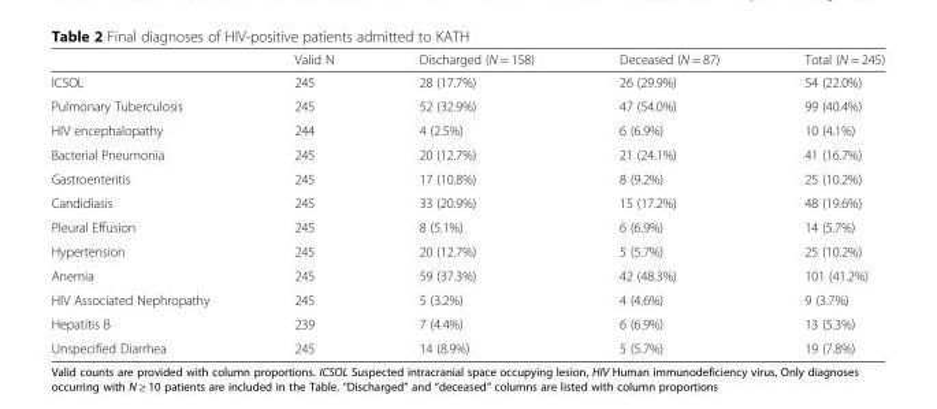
<table><thead><tr><td></td><td>Valid N</td><td>Discharged (N = 158)</td><td>Deceased (N = 87)</td><td>Total (N = 245)</td></tr></thead><tbody><tr><td>ICSOL</td><td>245</td><td>28 (17.7%)</td><td>26 (29.9%)</td><td>54 (22.0%)</td></tr><tr><td>Pulmonary Tuberculosis</td><td>245</td><td>52 (32.9%)</td><td>47 (54.0%)</td><td>99 (40.4%)</td></tr><tr><td>HIV encephalopathy</td><td>244</td><td>4 (2.5%)</td><td>6 (6.9%)</td><td>10 (4.1%)</td></tr><tr><td>Bacterial Pneumonia</td><td>245</td><td>20 (12.7%)</td><td>21 (24.1%)</td><td>41 (16.7%)</td></tr><tr><td>Gastroenteritis</td><td>245</td><td>17 (10.8%)</td><td>8 (9.2%)</td><td>25 (10.2%)</td></tr><tr><td>Candidiasis</td><td>245</td><td>33 (20.9%)</td><td>15 (17.2%)</td><td>48 (19.6%)</td></tr><tr><td>Pleural Effusion</td><td>245</td><td>8 (5.1%)</td><td>6 (6.9%)</td><td>14 (5.7%)</td></tr><tr><td>Hypertension</td><td>245</td><td>20 (12.7%)</td><td>5 (5.7%)</td><td>25 (10.2%)</td></tr><tr><td>Anemia</td><td>245</td><td>59 (37.3%)</td><td>42 (48.3%)</td><td>101 (41.2%)</td></tr><tr><td>HIV Associated Nephropathy</td><td>245</td><td>5 (3.2%)</td><td>4 (4.6%)</td><td>9 (3.7%)</td></tr><tr><td>Hepatitis B</td><td>239</td><td>7 (4.4%)</td><td>6 (6.9%)</td><td>13 (5.3%)</td></tr><tr><td>Unspecified Diarrhea</td><td>245</td><td>14 (8.9%)</td><td>5 (5.7%)</td><td>19 (7.8%)</td></tr></tbody></table>